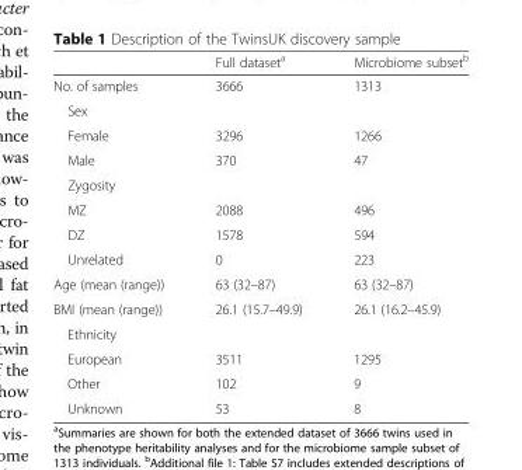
<table><thead><tr><td></td><td>Full dataset<sup>a</sup></td><td>Microbiome subset<sup>b</sup></td></tr></thead><tbody><tr><td>No. of samples</td><td>3666</td><td>1313</td></tr><tr><td colspan="3">Sex</td></tr><tr><td>Female</td><td>3296</td><td>1266</td></tr><tr><td>Male</td><td>370</td><td>47</td></tr><tr><td colspan="3">Zygosity</td></tr><tr><td>MZ</td><td>2088</td><td>496</td></tr><tr><td>DZ</td><td>1578</td><td>594</td></tr><tr><td>Unrelated</td><td>0</td><td>223</td></tr><tr><td>Age (mean (range))</td><td>63 (32–87)</td><td>63 (32–87)</td></tr><tr><td>BMI (mean (range))</td><td>26.1 (15.7–49.9)</td><td>26.1 (16.2–45.9)</td></tr><tr><td colspan="3">Ethnicity</td></tr><tr><td>European</td><td>3511</td><td>1295</td></tr><tr><td>Other</td><td>102</td><td>9</td></tr><tr><td>Unknown</td><td>53</td><td>8</td></tr></tbody></table>